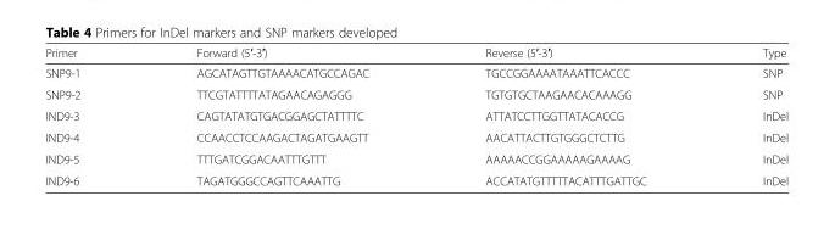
<table><thead><tr><td>Primer</td><td>Forward (5′-3′)</td><td>Reverse (5′-3′)</td><td>Type</td></tr></thead><tbody><tr><td>SNP9-1</td><td>AGCATAGTTGTAAAACATGCCAGAC</td><td>TGCCGGAAAATAAATTCACCC</td><td>SNP</td></tr><tr><td>SNP9-2</td><td>TTCGTATTTTATAGAACAGAGGG</td><td>TGTGTGCTAAGAACACAAAGG</td><td>SNP</td></tr><tr><td>IND9-3</td><td>CAGTATATGTGACGGAGCTATTTTC</td><td>ATTATCCTTGGTTATACACCG</td><td>InDel</td></tr><tr><td>IND9-4</td><td>CCAACCTCCAAGACTAGATGAAGTT</td><td>AACATTACTTGTGGGCTCTTG</td><td>InDel</td></tr><tr><td>IND9-5</td><td>TTTGATCGGACAATTTGTTT</td><td>AAAAACCGGAAAAAGAAAAG</td><td>InDel</td></tr><tr><td>IND9-6</td><td>TAGATGGGCCAGTTCAAATTG</td><td>ACCATATGTTTTTACATTTGATTGC</td><td>InDel</td></tr></tbody></table>